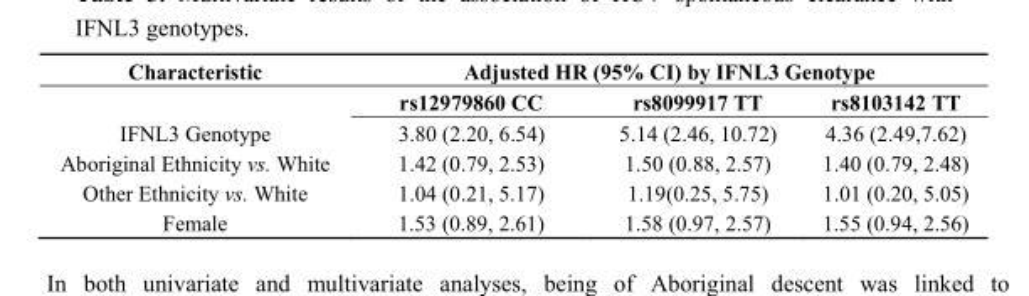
<table><thead><tr><td rowspan="2">Characteristic</td><td colspan="3">Adjusted HR (95% CI) by IFNL3 Genotype</td></tr><tr><td>rs12979860 CC</td><td>rs8099917 TT</td><td>rs8103142 TT</td></tr></thead><tbody><tr><td>IFNL3 Genotype</td><td>3.80 (2.20, 6.54)</td><td>5.14 (2.46, 10.72)</td><td>4.36 (2.49,7.62)</td></tr><tr><td>Aboriginal Ethnicity vs. White</td><td>1.42 (0.79, 2.53)</td><td>1.50 (0.88, 2.57)</td><td>1.40 (0.79, 2.48)</td></tr><tr><td>Other Ethnicity vs. White</td><td>1.04 (0.21, 5.17)</td><td>1.19(0.25, 5.75)</td><td>1.01 (0.20, 5.05)</td></tr><tr><td>Female</td><td>1.53 (0.89, 2.61)</td><td>1.58 (0.97, 2.57)</td><td>1.55 (0.94, 2.56)</td></tr></tbody></table>